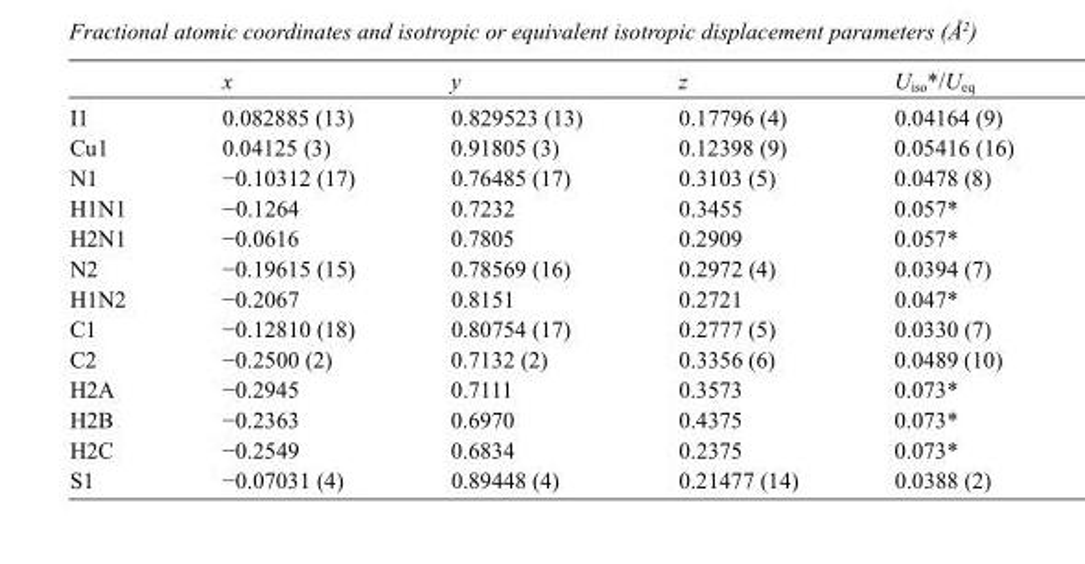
<table><thead><tr><td></td><td>x</td><td>y</td><td>z</td><td>U<sub>iso</sub>*/U<sub>eq</sub></td></tr></thead><tbody><tr><td>I1</td><td>0.082885 (13)</td><td>0.829523 (13)</td><td>0.17796 (4)</td><td>0.04164 (9)</td></tr><tr><td>Cu1</td><td>0.04125 (3)</td><td>0.91805 (3)</td><td>0.12398 (9)</td><td>0.05416 (16)</td></tr><tr><td>N1</td><td>−0.10312 (17)</td><td>0.76485 (17)</td><td>0.3103 (5)</td><td>0.0478 (8)</td></tr><tr><td>H1N1</td><td>−0.1264</td><td>0.7232</td><td>0.3455</td><td>0.057*</td></tr><tr><td>H2N1</td><td>−0.0616</td><td>0.7805</td><td>0.2909</td><td>0.057*</td></tr><tr><td>N2</td><td>−0.19615 (15)</td><td>0.78569 (16)</td><td>0.2972 (4)</td><td>0.0394 (7)</td></tr><tr><td>H1N2</td><td>−0.2067</td><td>0.8151</td><td>0.2721</td><td>0.047*</td></tr><tr><td>C1</td><td>−0.12810 (18)</td><td>0.80754 (17)</td><td>0.2777 (5)</td><td>0.0330 (7)</td></tr><tr><td>C2</td><td>−0.2500 (2)</td><td>0.7132 (2)</td><td>0.3356 (6)</td><td>0.0489 (10)</td></tr><tr><td>H2A</td><td>−0.2945</td><td>0.7111</td><td>0.3573</td><td>0.073*</td></tr><tr><td>H2B</td><td>−0.2363</td><td>0.6970</td><td>0.4375</td><td>0.073*</td></tr><tr><td>H2C</td><td>−0.2549</td><td>0.6834</td><td>0.2375</td><td>0.073*</td></tr><tr><td>S1</td><td>−0.07031 (4)</td><td>0.89448 (4)</td><td>0.21477 (14)</td><td>0.0388 (2)</td></tr></tbody></table>